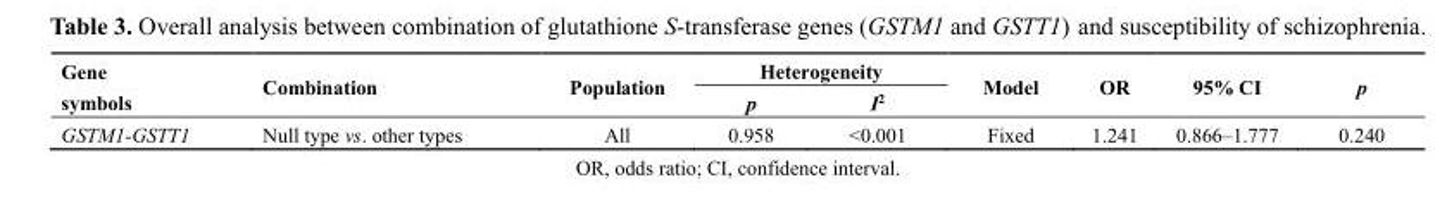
<table><thead><tr><td rowspan="2">Gene symbols</td><td rowspan="2">Combination</td><td rowspan="2">Population</td><td colspan="2">Heterogeneity</td><td rowspan="2">Model</td><td rowspan="2">OR</td><td rowspan="2">95% CI</td><td rowspan="2">p</td></tr><tr><td>p</td><td>I<sup>2</sup></td></tr></thead><tbody><tr><td>GSTM1-GSTT1</td><td>Null type vs. other types</td><td>All</td><td>0.958</td><td>&lt;0.001</td><td>Fixed</td><td>1.241</td><td>0.866–1.777</td><td>0.240</td></tr></tbody></table>